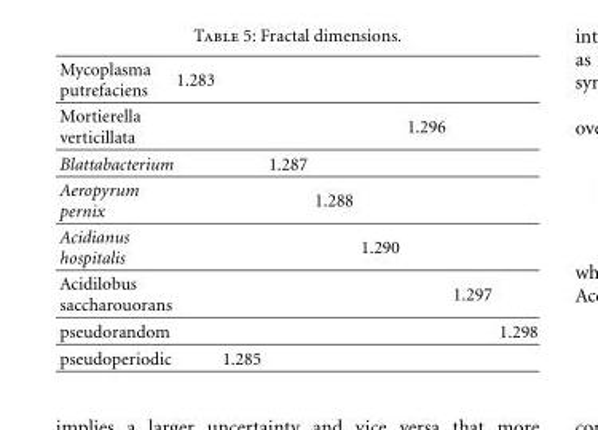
<table><tbody><tr><td>Mycoplasma putrefaciens</td><td>1.283</td><td></td><td></td><td></td><td></td><td></td><td></td><td></td></tr><tr><td>Mortierella verticillata</td><td></td><td></td><td></td><td></td><td></td><td>1.296</td><td></td><td></td></tr><tr><td>Blattabacterium</td><td></td><td></td><td>1.287</td><td></td><td></td><td></td><td></td><td></td></tr><tr><td>Aeropyrum pernix</td><td></td><td></td><td></td><td>1.288</td><td></td><td></td><td></td><td></td></tr><tr><td>Acidianus hospitalis</td><td></td><td></td><td></td><td></td><td>1.290</td><td></td><td></td><td></td></tr><tr><td>Acidilobus saccharouorans</td><td></td><td></td><td></td><td></td><td></td><td></td><td>1.297</td><td></td></tr><tr><td>pseudorandom</td><td></td><td></td><td></td><td></td><td></td><td></td><td></td><td>1.298</td></tr><tr><td>pseudoperiodic</td><td></td><td>1.285</td><td></td><td></td><td></td><td></td><td></td><td></td></tr></tbody></table>